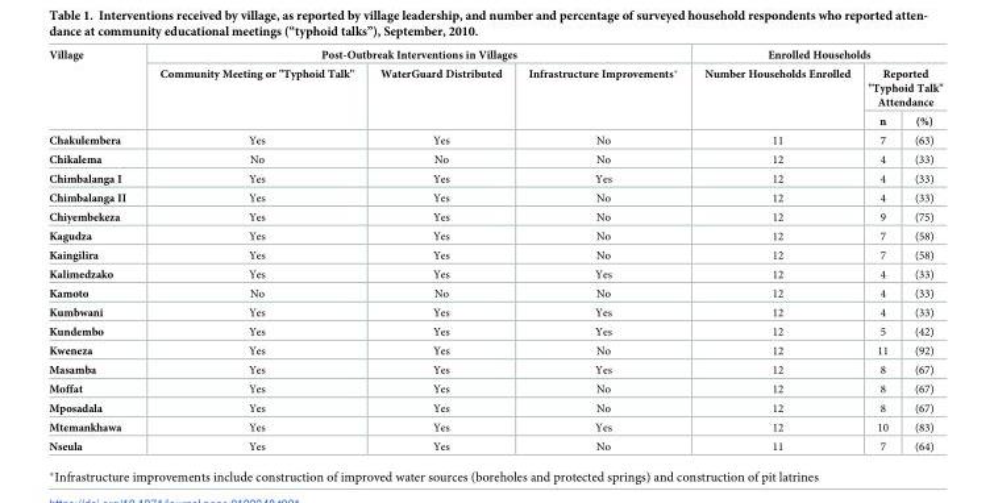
<table><thead><tr><td rowspan="3">Village</td><td colspan="3">Post-Outbreak Interventions in Villages</td><td colspan="3">Enrolled Households</td></tr><tr><td rowspan="2">Community Meeting or &quot;Typhoid Talk&quot;</td><td rowspan="2">WaterGuard Distributed</td><td rowspan="2">Infrastructure Improvements*</td><td rowspan="2">Number Households Enrolled</td><td colspan="2">Reported &quot;Typhoid Talk&quot; Attendance</td></tr><tr><td>n</td><td>(%)</td></tr></thead><tbody><tr><td>Chakulembera</td><td>Yes</td><td>Yes</td><td>No</td><td>11</td><td>7</td><td>(63)</td></tr><tr><td>Chikalema</td><td>No</td><td>No</td><td>No</td><td>12</td><td>4</td><td>(33)</td></tr><tr><td>Chimbalanga I</td><td>Yes</td><td>Yes</td><td>Yes</td><td>12</td><td>4</td><td>(33)</td></tr><tr><td>Chimbalanga II</td><td>Yes</td><td>Yes</td><td>No</td><td>12</td><td>4</td><td>(33)</td></tr><tr><td>Chiyembekeza</td><td>Yes</td><td>Yes</td><td>No</td><td>12</td><td>9</td><td>(75)</td></tr><tr><td>Kagudza</td><td>Yes</td><td>Yes</td><td>No</td><td>12</td><td>7</td><td>(58)</td></tr><tr><td>Kaingilira</td><td>Yes</td><td>Yes</td><td>No</td><td>12</td><td>7</td><td>(58)</td></tr><tr><td>Kalimedzako</td><td>Yes</td><td>Yes</td><td>Yes</td><td>12</td><td>4</td><td>(33)</td></tr><tr><td>Kamoto</td><td>No</td><td>No</td><td>No</td><td>12</td><td>4</td><td>(33)</td></tr><tr><td>Kumbwani</td><td>Yes</td><td>Yes</td><td>Yes</td><td>12</td><td>4</td><td>(33)</td></tr><tr><td>Kundembo</td><td>Yes</td><td>Yes</td><td>Yes</td><td>12</td><td>5</td><td>(42)</td></tr><tr><td>Kweneza</td><td>Yes</td><td>Yes</td><td>No</td><td>12</td><td>11</td><td>(92)</td></tr><tr><td>Masamba</td><td>Yes</td><td>Yes</td><td>Yes</td><td>12</td><td>8</td><td>(67)</td></tr><tr><td>Moffat</td><td>Yes</td><td>Yes</td><td>No</td><td>12</td><td>8</td><td>(67)</td></tr><tr><td>Mposadala</td><td>Yes</td><td>Yes</td><td>No</td><td>12</td><td>8</td><td>(67)</td></tr><tr><td>Mtemankhawa</td><td>Yes</td><td>Yes</td><td>Yes</td><td>12</td><td>10</td><td>(83)</td></tr><tr><td>Nseula</td><td>Yes</td><td>Yes</td><td>No</td><td>11</td><td>7</td><td>(64)</td></tr></tbody></table>